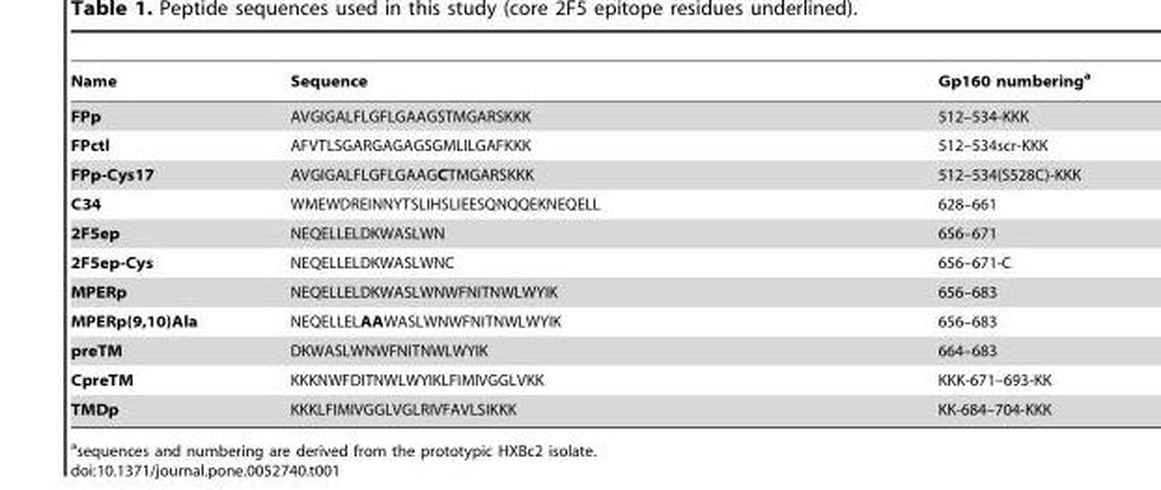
<table><thead><tr><td>Name</td><td>Sequence</td><td>Gp160 numbering<sup>a</sup></td></tr></thead><tbody><tr><td>FPp</td><td>AVGIGALFLGFLGAAGSTMGARSKKK</td><td>512–534-KKK</td></tr><tr><td>FPctl</td><td>AFVTLSGARGAGAGSGMLILGAFKKK</td><td>512–534scr-KKK</td></tr><tr><td>FPp-Cys17</td><td>AVGIGALFLGFLGAAGCTMGARSKKK</td><td>512–534(S528C)-KKK</td></tr><tr><td>C34</td><td>WMEWDREINNYTSLIHSLIEESQNQQEKNEQELL</td><td>628–661</td></tr><tr><td>2F5ep</td><td>NEQELLELDKWASLWN</td><td>656–671</td></tr><tr><td>2F5ep-Cys</td><td>NEQELLELDKWASLWNC</td><td>656–671-C</td></tr><tr><td>MPERp</td><td>NEQELLELDKWASLWNWFNITNWLWYIK</td><td>656–683</td></tr><tr><td>MPERp(9,10)Ala</td><td>NEQELLELAAWASLWNWFNITNWLWYIK</td><td>656–683</td></tr><tr><td>preTM</td><td>DKWASLWNWFNITNWLWYIK</td><td>664–683</td></tr><tr><td>CpreTM</td><td>KKKNWFDITNWLWYIKLFIMIVGGLVKK</td><td>KKK-671–693-KK</td></tr><tr><td>TMDp</td><td>KKKLFIMIVGGLVGLRIVFAVLSIKKK</td><td>KK-684–704-KKK</td></tr></tbody></table>